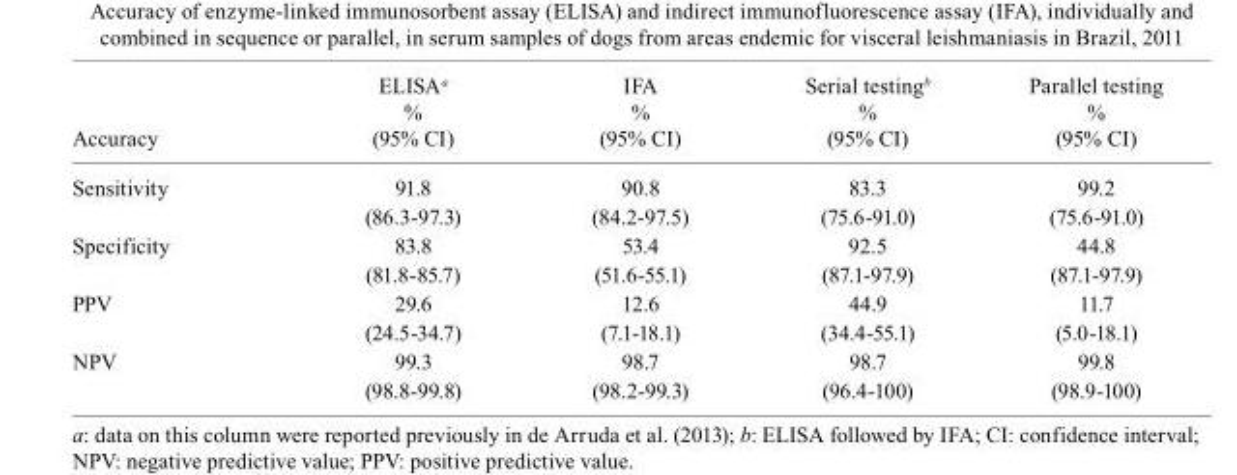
<table><tbody><tr><td>Accuracy</td><td>ELISA<sup>a</sup> % (95% CI)</td><td>IFA % (95% CI)</td><td>Serial testing<sup>b</sup> % (95% CI)</td><td>Parallel testing % (95% CI)</td></tr><tr><td rowspan="2">Sensitivity</td><td>91.8</td><td>90.8</td><td>83.3</td><td>99.2</td></tr><tr><td>(86.3-97.3)</td><td>(84.2-97.5)</td><td>(75.6-91.0)</td><td>(75.6-91.0)</td></tr><tr><td rowspan="2">Specificity</td><td>83.8</td><td>53.4</td><td>92.5</td><td>44.8</td></tr><tr><td>(81.8-85.7)</td><td>(51.6-55.1)</td><td>(87.1-97.9)</td><td>(87.1-97.9)</td></tr><tr><td rowspan="2">PPV</td><td>29.6</td><td>12.6</td><td>44.9</td><td>11.7</td></tr><tr><td>(24.5-34.7)</td><td>(7.1-18.1)</td><td>(34.4-55.1)</td><td>(5.0-18.1)</td></tr><tr><td rowspan="2">NPV</td><td>99.3</td><td>98.7</td><td>98.7</td><td>99.8</td></tr><tr><td>(98.8-99.8)</td><td>(98.2-99.3)</td><td>(96.4-100)</td><td>(98.9-100)</td></tr></tbody></table>